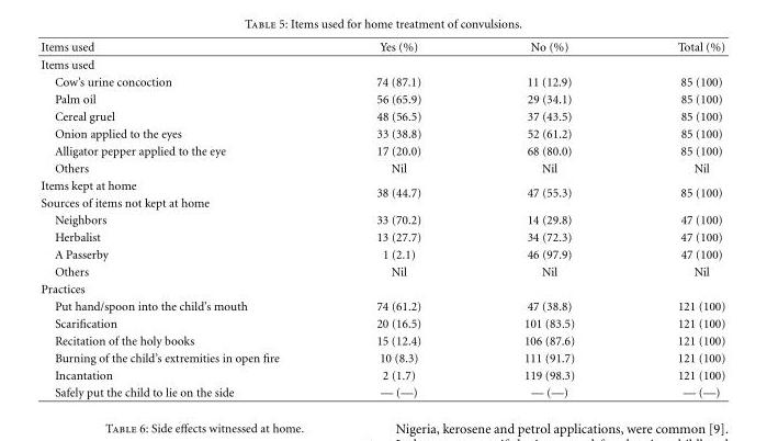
<table><thead><tr><td>Items used</td><td>Yes (%)</td><td>No (%)</td><td>Total (%)</td></tr></thead><tbody><tr><td colspan="4">Items used</td></tr><tr><td>Cow’s urine concoction</td><td>74 (87.1)</td><td>11 (12.9)</td><td>85 (100)</td></tr><tr><td>Palm oil</td><td>56 (65.9)</td><td>29 (34.1)</td><td>85 (100)</td></tr><tr><td>Cereal gruel</td><td>48 (56.5)</td><td>37 (43.5)</td><td>85 (100)</td></tr><tr><td>Onion applied to the eyes</td><td>33 (38.8)</td><td>52 (61.2)</td><td>85 (100)</td></tr><tr><td>Alligator pepper applied to the eye</td><td>17 (20.0)</td><td>68 (80.0)</td><td>85 (100)</td></tr><tr><td>Others</td><td>Nil</td><td>Nil</td><td>Nil</td></tr><tr><td>Items kept at home</td><td rowspan="2">38 (44.7)</td><td rowspan="2">47 (55.3)</td><td rowspan="2">85 (100)</td></tr><tr><td>Sources of items not kept at home</td></tr><tr><td>Neighbors</td><td>33 (70.2)</td><td>14 (29.8)</td><td>47 (100)</td></tr><tr><td>Herbalist</td><td>13 (27.7)</td><td>34 (72.3)</td><td>47 (100)</td></tr><tr><td>A Passerby</td><td>1 (2.1)</td><td>46 (97.9)</td><td>47 (100)</td></tr><tr><td>Others</td><td>Nil</td><td>Nil</td><td>Nil</td></tr><tr><td colspan="4">Practices</td></tr><tr><td>Put hand/spoon into the child’s mouth</td><td>74 (61.2)</td><td>47 (38.8)</td><td>121 (100)</td></tr><tr><td>Scarification</td><td>20 (16.5)</td><td>101 (83.5)</td><td>121 (100)</td></tr><tr><td>Recitation of the holy books</td><td>15 (12.4)</td><td>106 (87.6)</td><td>121 (100)</td></tr><tr><td>Burning of the child’s extremities in open fire</td><td>10 (8.3)</td><td>111 (91.7)</td><td>121 (100)</td></tr><tr><td>Incantation</td><td>2 (1.7)</td><td>119 (98.3)</td><td>121 (100)</td></tr><tr><td>Safely put the child to lie on the side</td><td>— (—)</td><td>— (—)</td><td>— (—)</td></tr></tbody></table>